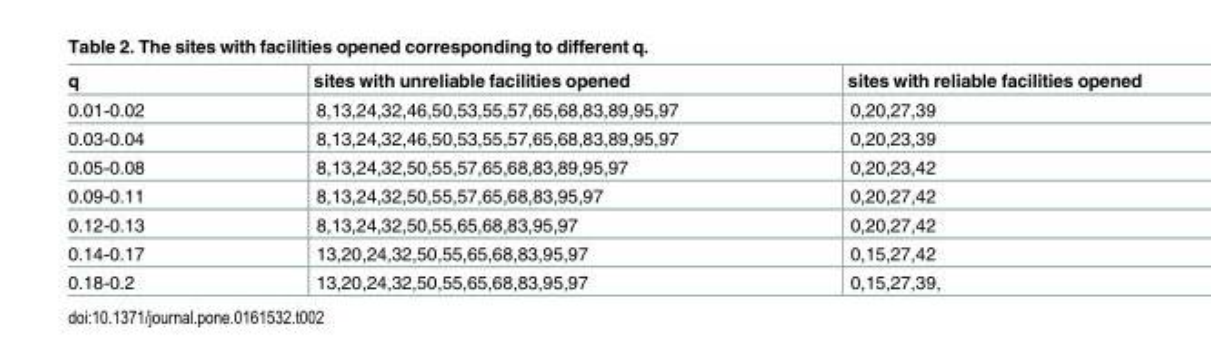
<table><thead><tr><td>q</td><td>sites with unreliable facilities opened</td><td>sites with reliable facilities opened</td></tr></thead><tbody><tr><td>0.01-0.02</td><td>8,13,24,32,46,50,53,55,57,65,68,83,89,95,97</td><td>0,20,27,39</td></tr><tr><td>0.03-0.04</td><td>8,13,24,32,46,50,53,55,57,65,68,83,89,95,97</td><td>0,20,23,39</td></tr><tr><td>0.05-0.08</td><td>8,13,24,32,50,55,57,65,68,83,89,95,97</td><td>0,20,23,42</td></tr><tr><td>0.09-0.11</td><td>8,13,24,32,50,55,57,65,68,83,95,97</td><td>0,20,27,42</td></tr><tr><td>0.12-0.13</td><td>8,13,24,32,50,55,65,68,83,95,97</td><td>0,20,27,42</td></tr><tr><td>0.14-0.17</td><td>13,20,24,32,50,55,65,68,83,95,97</td><td>0,15,27,42</td></tr><tr><td>0.18-0.2</td><td>13,20,24,32,50,55,65,68,83,95,97</td><td>0,15,27,39,</td></tr></tbody></table>